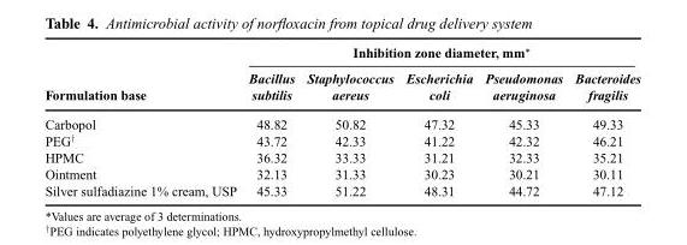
<table><thead><tr><td rowspan="2">Formulation base</td><td colspan="5">Inhibition zone diameter, mm∗</td></tr><tr><td>Bacillus subtilis</td><td>Staphylococcus aereus</td><td>Escherichia coli</td><td>Pseudomonas aeruginosa</td><td>Bacteroides fragilis</td></tr></thead><tbody><tr><td>Carbopol</td><td>48.82</td><td>50.82</td><td>47.32</td><td>45.33</td><td>49.33</td></tr><tr><td>PEG†</td><td>43.72</td><td>42.33</td><td>41.22</td><td>42.32</td><td>46.21</td></tr><tr><td>HPMC</td><td>36.32</td><td>33.33</td><td>31.21</td><td>32.33</td><td>35.21</td></tr><tr><td>Ointment</td><td>32.13</td><td>31.33</td><td>30.23</td><td>30.21</td><td>30.11</td></tr><tr><td>Silver sulfadiazine 1% cream, USP</td><td>45.33</td><td>51.22</td><td>48.31</td><td>44.72</td><td>47.12</td></tr></tbody></table>